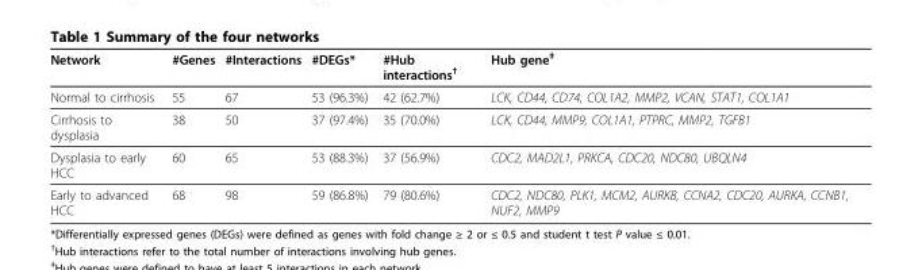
<table><thead><tr><td>Network</td><td>#Genes</td><td>#Interactions</td><td>#DEGs*</td><td>#Hub interactions<sup>†</sup></td><td>Hub gene<sup>‡</sup></td></tr></thead><tbody><tr><td>Normal to cirrhosis</td><td>55</td><td>67</td><td>53 (96.3%)</td><td>42 (62.7%)</td><td>LCK, CD44, CD74, COL1A2, MMP2, VCAN, STAT1, COL1A1</td></tr><tr><td>Cirrhosis to dysplasia</td><td>38</td><td>50</td><td>37 (97.4%)</td><td>35 (70.0%)</td><td>LCK, CD44, MMP9, COL1A1, PTPRC, MMP2, TGFB1</td></tr><tr><td>Dysplasia to early HCC</td><td>60</td><td>65</td><td>53 (88.3%)</td><td>37 (56.9%)</td><td>CDC2, MAD2L1, PRKCA, CDC20, NDC80, UBQLN4</td></tr><tr><td>Early to advanced HCC</td><td>68</td><td>98</td><td>59 (86.8%)</td><td>79 (80.6%)</td><td>CDC2, NDC80, PLK1, MCM2, AURKB, CCNA2, CDC20, AURKA, CCNB1, NUF2, MMP9</td></tr></tbody></table>